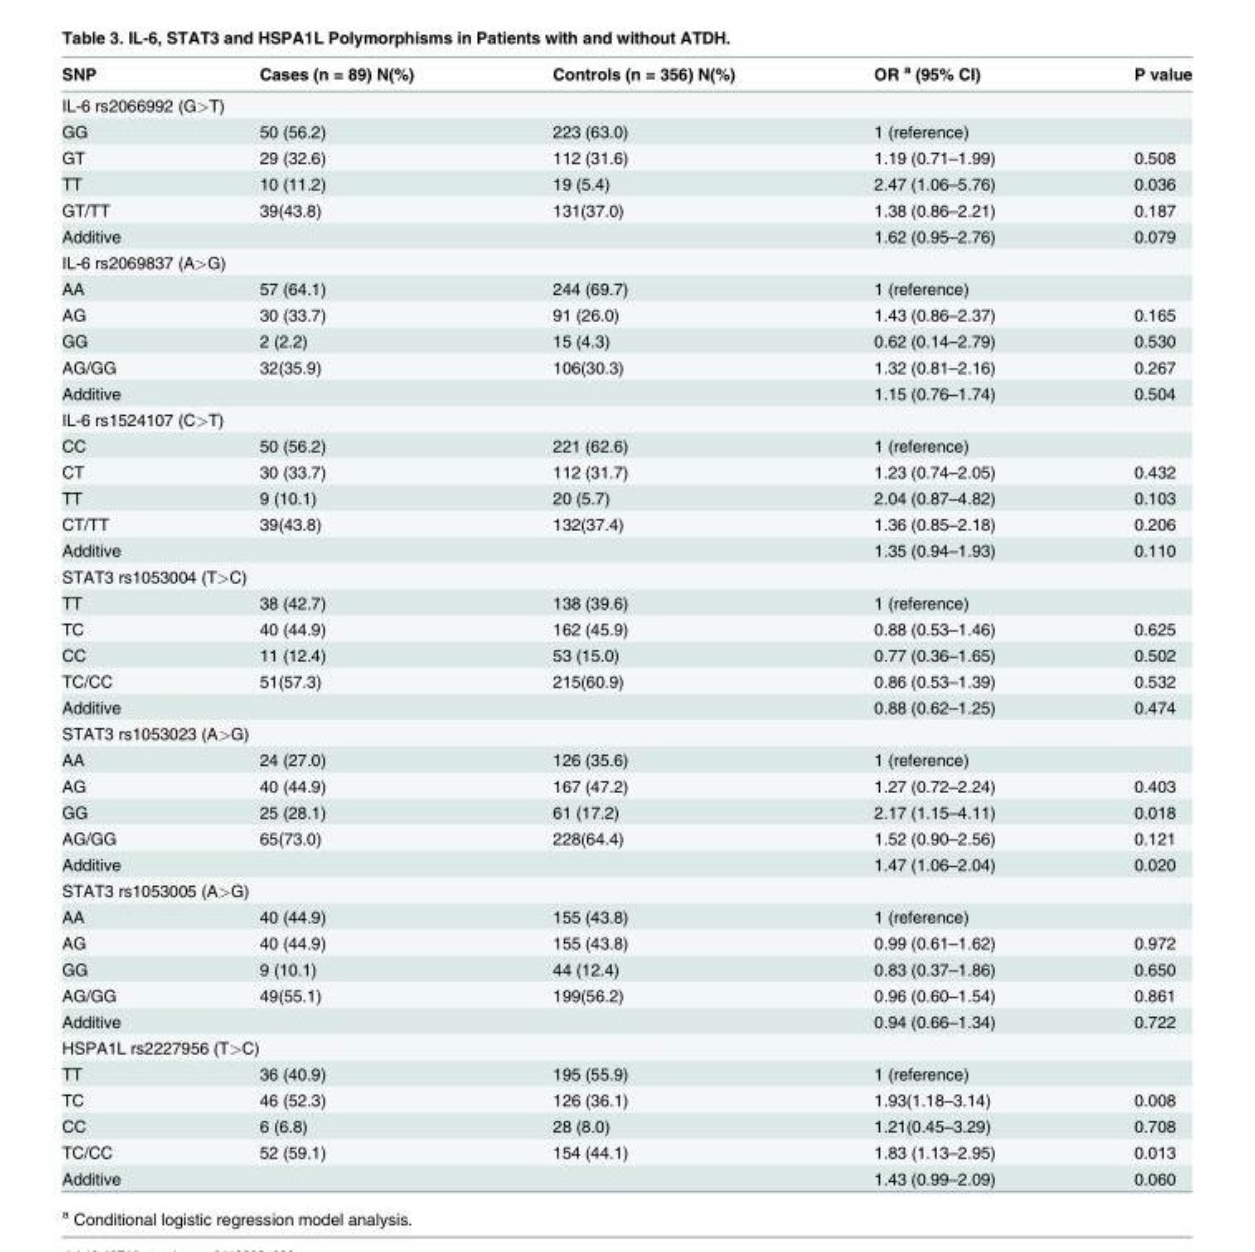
<table><thead><tr><td>SNP</td><td>Cases (n = 89) N(%)</td><td>Controls (n = 356) N(%)</td><td>OR <sup>a</sup> (95% CI)</td><td>P value</td></tr></thead><tbody><tr><td colspan="5">IL-6 rs2066992 (G&gt;T)</td></tr><tr><td>GG</td><td>50 (56.2)</td><td>223 (63.0)</td><td>1 (reference)</td><td></td></tr><tr><td>GT</td><td>29 (32.6)</td><td>112 (31.6)</td><td>1.19 (0.71–1.99)</td><td>0.508</td></tr><tr><td>TT</td><td>10 (11.2)</td><td>19 (5.4)</td><td>2.47 (1.06–5.76)</td><td>0.036</td></tr><tr><td>GT/TT</td><td>39(43.8)</td><td>131(37.0)</td><td>1.38 (0.86–2.21)</td><td>0.187</td></tr><tr><td>Additive</td><td></td><td></td><td>1.62 (0.95–2.76)</td><td>0.079</td></tr><tr><td colspan="5">IL-6 rs2069837 (A&gt;G)</td></tr><tr><td>AA</td><td>57 (64.1)</td><td>244 (69.7)</td><td>1 (reference)</td><td></td></tr><tr><td>AG</td><td>30 (33.7)</td><td>91 (26.0)</td><td>1.43 (0.86–2.37)</td><td>0.165</td></tr><tr><td>GG</td><td>2 (2.2)</td><td>15 (4.3)</td><td>0.62 (0.14–2.79)</td><td>0.530</td></tr><tr><td>AG/GG</td><td>32(35.9)</td><td>106(30.3)</td><td>1.32 (0.81–2.16)</td><td>0.267</td></tr><tr><td>Additive</td><td></td><td></td><td>1.15 (0.76–1.74)</td><td>0.504</td></tr><tr><td colspan="5">IL-6 rs1524107 (C&gt;T)</td></tr><tr><td>CC</td><td>50 (56.2)</td><td>221 (62.6)</td><td>1 (reference)</td><td></td></tr><tr><td>CT</td><td>30 (33.7)</td><td>112 (31.7)</td><td>1.23 (0.74–2.05)</td><td>0.432</td></tr><tr><td>TT</td><td>9 (10.1)</td><td>20 (5.7)</td><td>2.04 (0.87–4.82)</td><td>0.103</td></tr><tr><td>CT/TT</td><td>39(43.8)</td><td>132(37.4)</td><td>1.36 (0.85–2.18)</td><td>0.206</td></tr><tr><td>Additive</td><td></td><td></td><td>1.35 (0.94–1.93)</td><td>0.110</td></tr><tr><td colspan="5">STAT3 rs1053004 (T&gt;C)</td></tr><tr><td>TT</td><td>38 (42.7)</td><td>138 (39.6)</td><td>1 (reference)</td><td></td></tr><tr><td>TC</td><td>40 (44.9)</td><td>162 (45.9)</td><td>0.88 (0.53–1.46)</td><td>0.625</td></tr><tr><td>CC</td><td>11 (12.4)</td><td>53 (15.0)</td><td>0.77 (0.36–1.65)</td><td>0.502</td></tr><tr><td>TC/CC</td><td>51(57.3)</td><td>215(60.9)</td><td>0.86 (0.53–1.39)</td><td>0.532</td></tr><tr><td>Additive</td><td></td><td></td><td>0.88 (0.62–1.25)</td><td>0.474</td></tr><tr><td colspan="5">STAT3 rs1053023 (A&gt;G)</td></tr><tr><td>AA</td><td>24 (27.0)</td><td>126 (35.6)</td><td>1 (reference)</td><td></td></tr><tr><td>AG</td><td>40 (44.9)</td><td>167 (47.2)</td><td>1.27 (0.72–2.24)</td><td>0.403</td></tr><tr><td>GG</td><td>25 (28.1)</td><td>61 (17.2)</td><td>2.17 (1.15–4.11)</td><td>0.018</td></tr><tr><td>AG/GG</td><td>65(73.0)</td><td>228(64.4)</td><td>1.52 (0.90–2.56)</td><td>0.121</td></tr><tr><td>Additive</td><td></td><td></td><td>1.47 (1.06–2.04)</td><td>0.020</td></tr><tr><td colspan="5">STAT3 rs1053005 (A&gt;G)</td></tr><tr><td>AA</td><td>40 (44.9)</td><td>155 (43.8)</td><td>1 (reference)</td><td></td></tr><tr><td>AG</td><td>40 (44.9)</td><td>155 (43.8)</td><td>0.99 (0.61–1.62)</td><td>0.972</td></tr><tr><td>GG</td><td>9 (10.1)</td><td>44 (12.4)</td><td>0.83 (0.37–1.86)</td><td>0.650</td></tr><tr><td>AG/GG</td><td>49(55.1)</td><td>199(56.2)</td><td>0.96 (0.60–1.54)</td><td>0.861</td></tr><tr><td>Additive</td><td></td><td></td><td>0.94 (0.66–1.34)</td><td>0.722</td></tr><tr><td colspan="5">HSPA1L rs2227956 (T&gt;C)</td></tr><tr><td>TT</td><td>36 (40.9)</td><td>195 (55.9)</td><td>1 (reference)</td><td></td></tr><tr><td>TC</td><td>46 (52.3)</td><td>126 (36.1)</td><td>1.93(1.18–3.14)</td><td>0.008</td></tr><tr><td>CC</td><td>6 (6.8)</td><td>28 (8.0)</td><td>1.21(0.45–3.29)</td><td>0.708</td></tr><tr><td>TC/CC</td><td>52 (59.1)</td><td>154 (44.1)</td><td>1.83 (1.13–2.95)</td><td>0.013</td></tr><tr><td>Additive</td><td></td><td></td><td>1.43 (0.99–2.09)</td><td>0.060</td></tr></tbody></table>